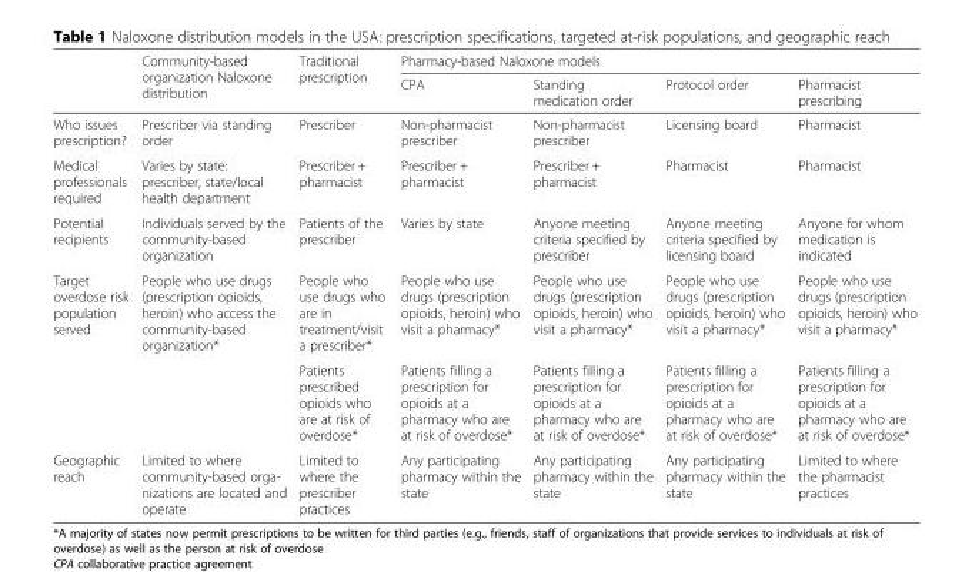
<table><thead><tr><td rowspan="2"></td><td rowspan="2">Community-based organization Naloxone distribution</td><td rowspan="2">Traditional prescription</td><td colspan="4">Pharmacy-based Naloxone models</td></tr><tr><td>CPA</td><td>Standing medication order</td><td>Protocol order</td><td>Pharmacist prescribing</td></tr></thead><tbody><tr><td>Who issues prescription?</td><td>Prescriber via standing order</td><td>Prescriber</td><td>Non-pharmacist prescriber</td><td>Non-pharmacist prescriber</td><td>Licensing board</td><td>Pharmacist</td></tr><tr><td>Medical professionals required</td><td>Varies by state: prescriber, state/local health department</td><td>Prescriber + pharmacist</td><td>Prescriber + pharmacist</td><td>Prescriber + pharmacist</td><td>Pharmacist</td><td>Pharmacist</td></tr><tr><td>Potential recipients</td><td>Individuals served by the community-based organization</td><td>Patients of the prescriber</td><td>Varies by state</td><td>Anyone meeting criteria specified by prescriber</td><td>Anyone meeting criteria specified by licensing board</td><td>Anyone for whom medication is indicated</td></tr><tr><td rowspan="2">Target overdose risk population served</td><td rowspan="2">People who use drugs (prescription opioids, heroin) who access the community-based organization*</td><td>People who use drugs who are in treatment/visit a prescriber*</td><td>People who use drugs (prescription opioids, heroin) who visit a pharmacy*</td><td>People who use drugs (prescription opioids, heroin) who visit a pharmacy*</td><td>People who use drugs (prescription opioids, heroin) who visit a pharmacy*</td><td>People who use drugs (prescription opioids, heroin) who visit a pharmacy*</td></tr><tr><td>Patients prescribed opioids who are at risk of overdose*</td><td>Patients filling a prescription for opioids at a pharmacy who are at risk of overdose*</td><td>Patients filling a prescription for opioids at a pharmacy who are at risk of overdose*</td><td>Patients filling a prescription for opioids at a pharmacy who are at risk of overdose*</td><td>Patients filling a prescription for opioids at a pharmacy who are at risk of overdose*</td></tr><tr><td>Geographic reach</td><td>Limited to where community-based orga- nizations are located and operate</td><td>Limited to where the prescriber practices</td><td>Any participating pharmacy within the state</td><td>Any participating pharmacy within the state</td><td>Any participating pharmacy within the state</td><td>Limited to where the pharmacist practices</td></tr></tbody></table>